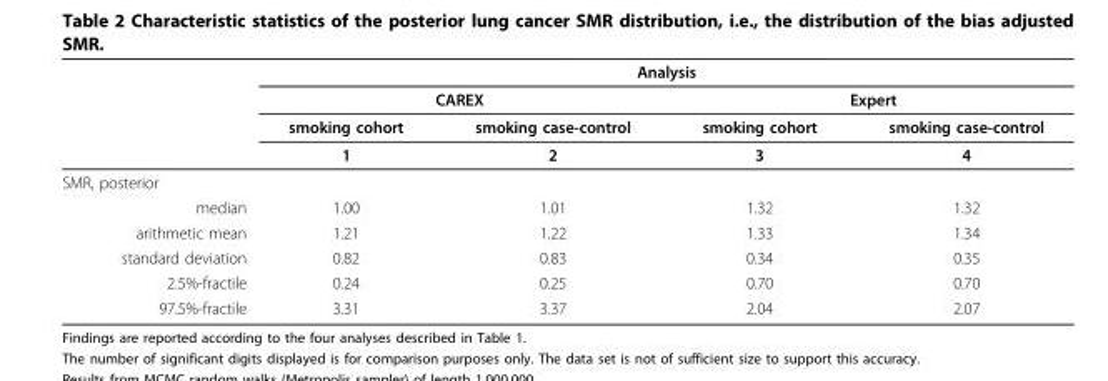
<table><thead><tr><td rowspan="4"></td><td colspan="4">Analysis</td></tr><tr><td colspan="2">CAREX</td><td colspan="2">Expert</td></tr><tr><td rowspan="2">smoking cohort 1</td><td rowspan="2">smoking case-control 2</td><td rowspan="2">smoking cohort 3</td><td rowspan="2">smoking case-control 4</td></tr><tr></tr></thead><tbody><tr><td colspan="5">SMR, posterior</td></tr><tr><td>median</td><td>1.00</td><td>1.01</td><td>1.32</td><td>1.32</td></tr><tr><td>arithmetic mean</td><td>1.21</td><td>1.22</td><td>1.33</td><td>1.34</td></tr><tr><td>standard deviation</td><td>0.82</td><td>0.83</td><td>0.34</td><td>0.35</td></tr><tr><td>2.5%-fractile</td><td>0.24</td><td>0.25</td><td>0.70</td><td>0.70</td></tr><tr><td>97.5%-fractile</td><td>3.31</td><td>3.37</td><td>2.04</td><td>2.07</td></tr></tbody></table>